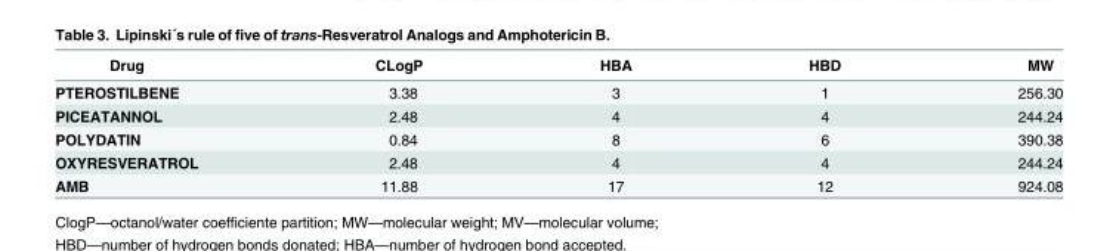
<table><thead><tr><td>Drug</td><td>CLogP</td><td>HBA</td><td>HBD</td><td>MW</td></tr></thead><tbody><tr><td>PTEROSTILBENE</td><td>3.38</td><td>3</td><td>1</td><td>256.30</td></tr><tr><td>PICEATANNOL</td><td>2.48</td><td>4</td><td>4</td><td>244.24</td></tr><tr><td>POLYDATIN</td><td>0.84</td><td>8</td><td>6</td><td>390.38</td></tr><tr><td>OXYRESVERATROL</td><td>2.48</td><td>4</td><td>4</td><td>244.24</td></tr><tr><td>AMB</td><td>11.88</td><td>17</td><td>12</td><td>924.08</td></tr></tbody></table>